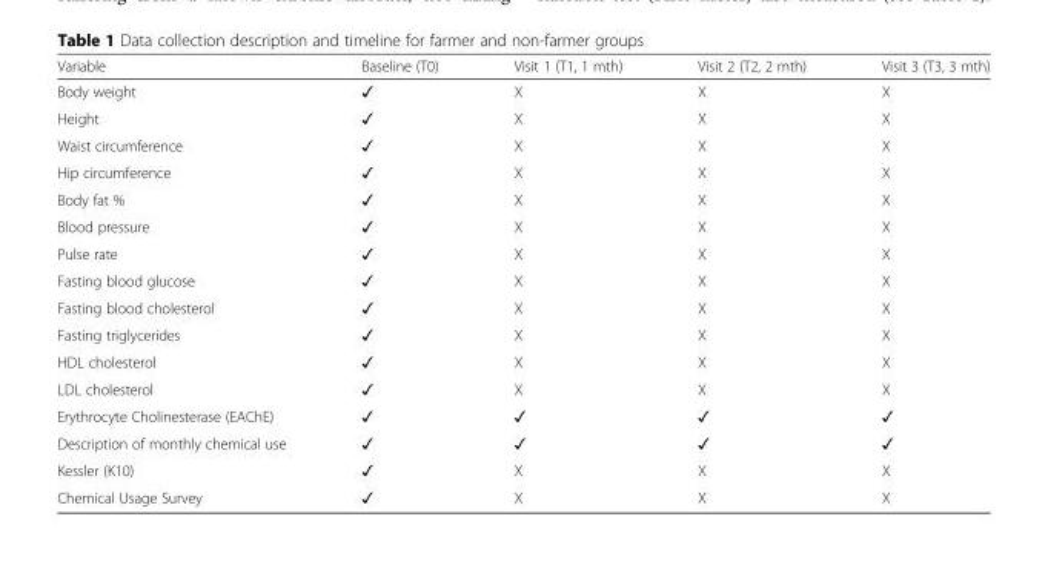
<table><thead><tr><td>Variable</td><td>Baseline (T0)</td><td>Visit 1 (T1, 1 mth)</td><td>Visit 2 (T2, 2 mth)</td><td>Visit 3 (T3, 3 mth)</td></tr></thead><tbody><tr><td>Body weight</td><td>✓</td><td>X</td><td>X</td><td>X</td></tr><tr><td>Height</td><td>✓</td><td>X</td><td>X</td><td>X</td></tr><tr><td>Waist circumference</td><td>✓</td><td>X</td><td>X</td><td>X</td></tr><tr><td>Hip circumference</td><td>✓</td><td>X</td><td>X</td><td>X</td></tr><tr><td>Body fat %</td><td>✓</td><td>X</td><td>X</td><td>X</td></tr><tr><td>Blood pressure</td><td>✓</td><td>X</td><td>X</td><td>X</td></tr><tr><td>Pulse rate</td><td>✓</td><td>X</td><td>X</td><td>X</td></tr><tr><td>Fasting blood glucose</td><td>✓</td><td>X</td><td>X</td><td>X</td></tr><tr><td>Fasting blood cholesterol</td><td>✓</td><td>X</td><td>X</td><td>X</td></tr><tr><td>Fasting triglycerides</td><td>✓</td><td>X</td><td>X</td><td>X</td></tr><tr><td>HDL cholesterol</td><td>✓</td><td>X</td><td>X</td><td>X</td></tr><tr><td>LDL cholesterol</td><td>✓</td><td>X</td><td>X</td><td>X</td></tr><tr><td>Erythrocyte Cholinesterase (EAChE)</td><td>✓</td><td>✓</td><td>✓</td><td>✓</td></tr><tr><td>Description of monthly chemical use</td><td>✓</td><td>✓</td><td>✓</td><td>✓</td></tr><tr><td>Kessler (K10)</td><td>✓</td><td>X</td><td>X</td><td>X</td></tr><tr><td>Chemical Usage Survey</td><td>✓</td><td>X</td><td>X</td><td>X</td></tr></tbody></table>